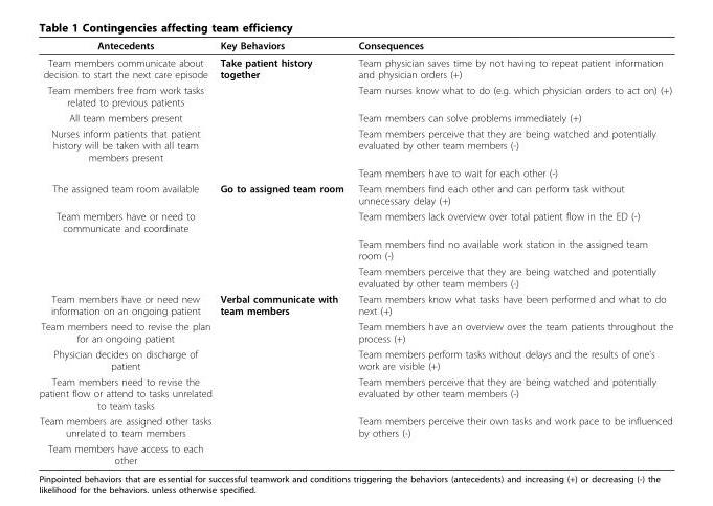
<table><thead><tr><td>Antecedents</td><td>Key Behaviors</td><td>Consequences</td></tr></thead><tbody><tr><td>Team members communicate about decision to start the next care episode</td><td>Take patient history together</td><td>Team physician saves time by not having to repeat patient information and physician orders (+)</td></tr><tr><td>Team members free from work tasks related to previous patients</td><td></td><td>Team nurses know what to do (e.g. which physician orders to act on) (+)</td></tr><tr><td>All team members present</td><td></td><td>Team members can solve problems immediately (+)</td></tr><tr><td rowspan="2">Nurses inform patients that patient history will be taken with all team members present</td><td></td><td>Team members perceive that they are being watched and potentially evaluated by other team members (-)</td></tr><tr><td></td><td>Team members have to wait for each other (-)</td></tr><tr><td>The assigned team room available</td><td>Go to assigned team room</td><td>Team members find each other and can perform task without unnecessary delay (+)</td></tr><tr><td rowspan="3">Team members have or need to communicate and coordinate</td><td></td><td>Team members lack overview over total patient flow in the ED (-)</td></tr><tr><td></td><td>Team members find no available work station in the assigned team room (-)</td></tr><tr><td></td><td>Team members perceive that they are being watched and potentially evaluated by other team members (-)</td></tr><tr><td>Team members have or need new information on an ongoing patient</td><td>Verbal communicate with team members</td><td>Team members know what tasks have been performed and what to do next (+)</td></tr><tr><td>Team members need to revise the plan for an ongoing patient</td><td></td><td>Team members have an overview over the team patients throughout the process (+)</td></tr><tr><td>Physician decides on discharge of patient</td><td></td><td>Team members perform tasks without delays and the results of one’s work are visible (+)</td></tr><tr><td>Team members need to revise the patient flow or attend to tasks unrelated to team tasks</td><td></td><td>Team members perceive that they are being watched and potentially evaluated by other team members (-)</td></tr><tr><td>Team members are assigned other tasks unrelated to team members</td><td></td><td>Team members perceive their own tasks and work pace to be influenced by others (-)</td></tr><tr><td>Team members have access to each other</td><td></td><td></td></tr></tbody></table>